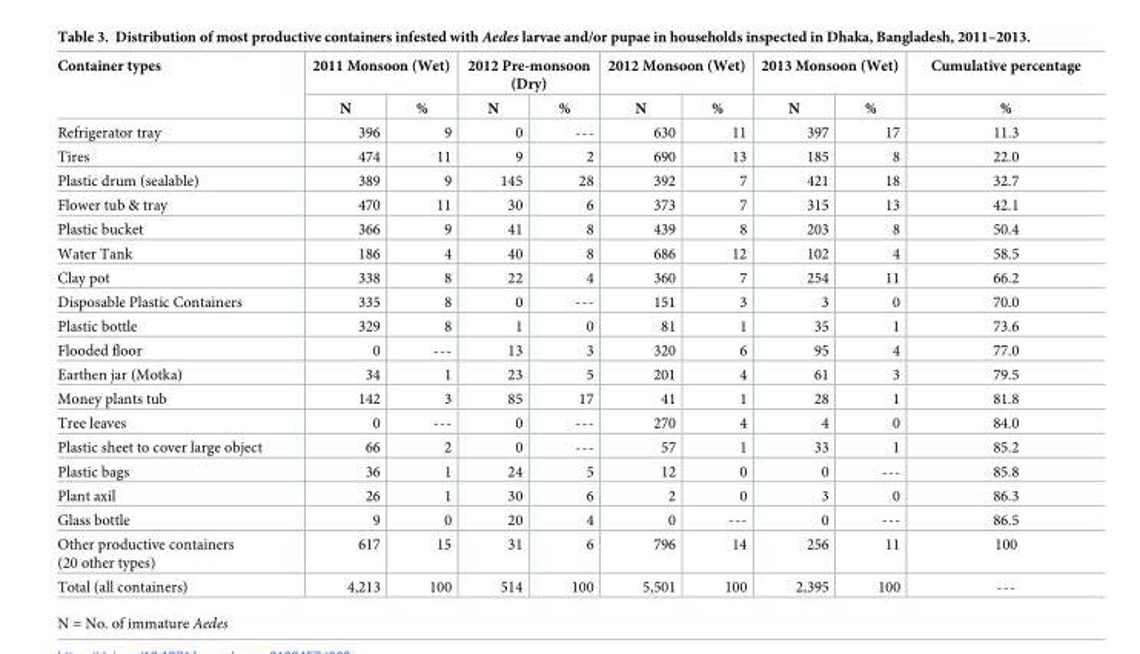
<table><thead><tr><td rowspan="2">Container types</td><td colspan="2">2011 Monsoon (Wet)</td><td colspan="2">2012 Pre-monsoon (Dry)</td><td colspan="2">2012 Monsoon (Wet)</td><td colspan="2">2013 Monsoon (Wet)</td><td rowspan="2">Cumulative percentage %</td></tr><tr><td>N</td><td>%</td><td>N</td><td>%</td><td>N</td><td>%</td><td>N</td><td>%</td></tr></thead><tbody><tr><td>Refrigerator tray</td><td>396</td><td>9</td><td>0</td><td>---</td><td>630</td><td>11</td><td>397</td><td>17</td><td>11.3</td></tr><tr><td>Tires</td><td>474</td><td>11</td><td>9</td><td>2</td><td>690</td><td>13</td><td>185</td><td>8</td><td>22.0</td></tr><tr><td>Plastic drum (sealable)</td><td>389</td><td>9</td><td>145</td><td>28</td><td>392</td><td>7</td><td>421</td><td>18</td><td>32.7</td></tr><tr><td>Flower tub &amp; tray</td><td>470</td><td>11</td><td>30</td><td>6</td><td>373</td><td>7</td><td>315</td><td>13</td><td>42.1</td></tr><tr><td>Plastic bucket</td><td>366</td><td>9</td><td>41</td><td>8</td><td>439</td><td>8</td><td>203</td><td>8</td><td>50.4</td></tr><tr><td>Water Tank</td><td>186</td><td>4</td><td>40</td><td>8</td><td>686</td><td>12</td><td>102</td><td>4</td><td>58.5</td></tr><tr><td>Clay pot</td><td>338</td><td>8</td><td>22</td><td>4</td><td>360</td><td>7</td><td>254</td><td>11</td><td>66.2</td></tr><tr><td>Disposable Plastic Containers</td><td>335</td><td>8</td><td>0</td><td>---</td><td>151</td><td>3</td><td>3</td><td>0</td><td>70.0</td></tr><tr><td>Plastic bottle</td><td>329</td><td>8</td><td>1</td><td>0</td><td>81</td><td>1</td><td>35</td><td>1</td><td>73.6</td></tr><tr><td>Flooded floor</td><td>0</td><td>---</td><td>13</td><td>3</td><td>320</td><td>6</td><td>95</td><td>4</td><td>77.0</td></tr><tr><td>Earthen jar (Motka)</td><td>34</td><td>1</td><td>23</td><td>5</td><td>201</td><td>4</td><td>61</td><td>3</td><td>79.5</td></tr><tr><td>Money plants tub</td><td>142</td><td>3</td><td>85</td><td>17</td><td>41</td><td>1</td><td>28</td><td>1</td><td>81.8</td></tr><tr><td>Tree leaves</td><td>0</td><td>---</td><td>0</td><td>---</td><td>270</td><td>4</td><td>4</td><td>0</td><td>84.0</td></tr><tr><td>Plastic sheet to cover large object</td><td>66</td><td>2</td><td>0</td><td>---</td><td>57</td><td>1</td><td>33</td><td>1</td><td>85.2</td></tr><tr><td>Plastic bags</td><td>36</td><td>1</td><td>24</td><td>5</td><td>12</td><td>0</td><td>0</td><td>---</td><td>85.8</td></tr><tr><td>Plant axil</td><td>26</td><td>1</td><td>30</td><td>6</td><td>2</td><td>0</td><td>3</td><td>0</td><td>86.3</td></tr><tr><td>Glass bottle</td><td>9</td><td>0</td><td>20</td><td>4</td><td>0</td><td>---</td><td>0</td><td>---</td><td>86.5</td></tr><tr><td>Other productive containers (20 other types)</td><td>617</td><td>15</td><td>31</td><td>6</td><td>796</td><td>14</td><td>256</td><td>11</td><td>100</td></tr><tr><td>Total (all containers)</td><td>4,213</td><td>100</td><td>514</td><td>100</td><td>5,501</td><td>100</td><td>2,395</td><td>100</td><td>---</td></tr></tbody></table>